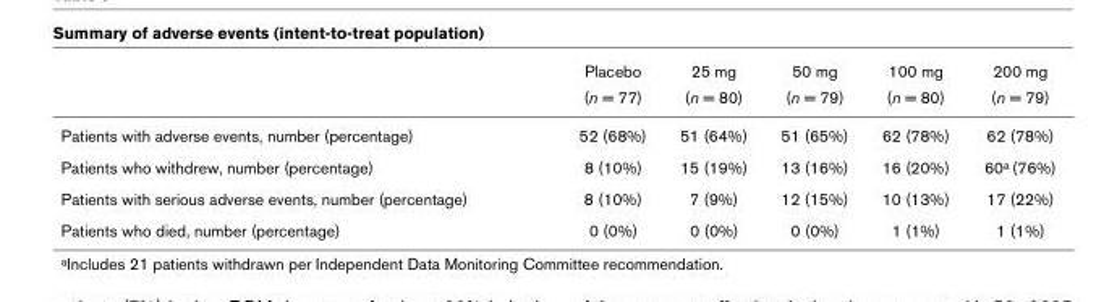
<table><thead><tr><td rowspan="2"></td><td rowspan="2">Placebo (n = 77)</td><td rowspan="2">25 mg (n = 80)</td><td rowspan="2">50 mg (n = 79)</td><td rowspan="2">100 mg (n = 80)</td><td rowspan="2">200 mg (n = 79)</td></tr><tr></tr></thead><tbody><tr><td>Patients with adverse events, number (percentage)</td><td>52 (68%)</td><td>51 (64%)</td><td>51 (65%)</td><td>62 (78%)</td><td>62 (78%)</td></tr><tr><td>Patients who withdrew, number (percentage)</td><td>8 (10%)</td><td>15 (19%)</td><td>13 (16%)</td><td>16 (20%)</td><td>60<sup>a</sup> (76%)</td></tr><tr><td>Patients with serious adverse events, number (percentage)</td><td>8 (10%)</td><td>7 (9%)</td><td>12 (15%)</td><td>10 (13%)</td><td>17 (22%)</td></tr><tr><td>Patients who died, number (percentage)</td><td>0 (0%)</td><td>0 (0%)</td><td>0 (0%)</td><td>1 (1%)</td><td>1 (1%)</td></tr></tbody></table>